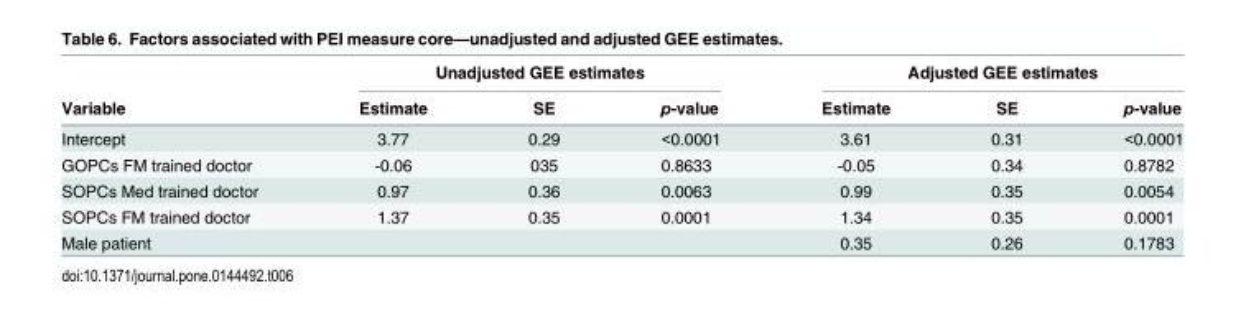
<table><thead><tr><td rowspan="2">Variable</td><td colspan="3">Unadjusted GEE estimates</td><td colspan="3">Adjusted GEE estimates</td></tr><tr><td>Estimate</td><td>SE</td><td>p-value</td><td>Estimate</td><td>SE</td><td>p-value</td></tr></thead><tbody><tr><td>Intercept</td><td>3.77</td><td>0.29</td><td>&lt;0.0001</td><td>3.61</td><td>0.31</td><td>&lt;0.0001</td></tr><tr><td>GOPCs FM trained doctor</td><td>-0.06</td><td>035</td><td>0.8633</td><td>-0.05</td><td>0.34</td><td>0.8782</td></tr><tr><td>SOPCs Med trained doctor</td><td>0.97</td><td>0.36</td><td>0.0063</td><td>0.99</td><td>0.35</td><td>0.0054</td></tr><tr><td>SOPCs FM trained doctor</td><td>1.37</td><td>0.35</td><td>0.0001</td><td>1.34</td><td>0.35</td><td>0.0001</td></tr><tr><td>Male patient</td><td></td><td></td><td></td><td>0.35</td><td>0.26</td><td>0.1783</td></tr></tbody></table>